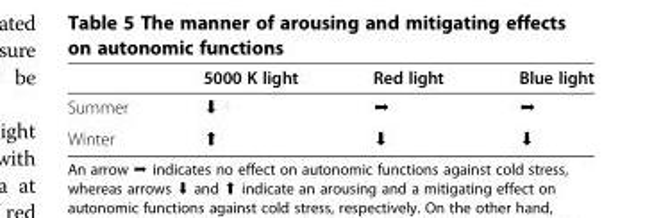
<table><thead><tr><td></td><td>5000 K light</td><td>Red light</td><td>Blue light</td></tr></thead><tbody><tr><td>Summer</td><td>⬇</td><td>➞</td><td>➞</td></tr><tr><td>Winter</td><td>⬆</td><td>⬇</td><td>⬇</td></tr></tbody></table>